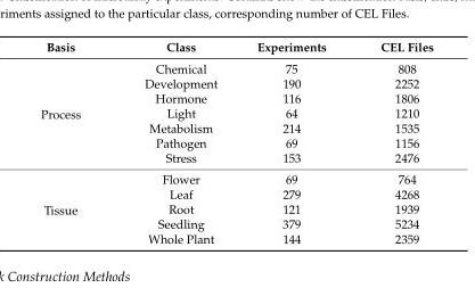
<table><thead><tr><td>Basis</td><td>Class</td><td>Experiments</td><td>CEL Files</td></tr></thead><tbody><tr><td rowspan="7">Process</td><td>Chemical</td><td>75</td><td>808</td></tr><tr><td>Development</td><td>190</td><td>2252</td></tr><tr><td>Hormone</td><td>116</td><td>1806</td></tr><tr><td>Light</td><td>64</td><td>1210</td></tr><tr><td>Metabolism</td><td>214</td><td>1535</td></tr><tr><td>Pathogen</td><td>69</td><td>1156</td></tr><tr><td>Stress</td><td>153</td><td>2476</td></tr><tr><td rowspan="5">Tissue</td><td>Flower</td><td>69</td><td>764</td></tr><tr><td>Leaf</td><td>279</td><td>4268</td></tr><tr><td>Root</td><td>121</td><td>1939</td></tr><tr><td>Seedling</td><td>379</td><td>5234</td></tr><tr><td>Whole Plant</td><td>144</td><td>2359</td></tr></tbody></table>